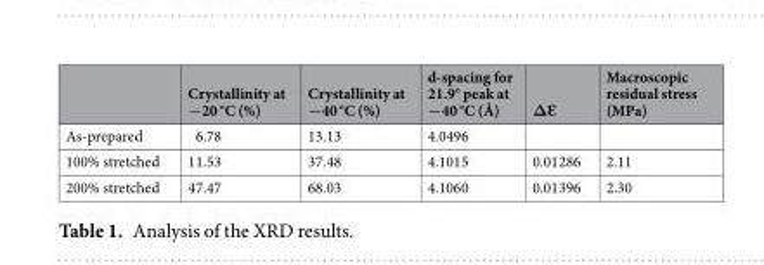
<table><thead><tr><td></td><td>Crystallinity at −20 °C (%)</td><td>Crystallinity at −40 °C (%)</td><td>d-spacing for 21.9° peak at −40 °C (Å)</td><td>ΔƐ</td><td>Macroscopic residual stress (MPa)</td></tr></thead><tbody><tr><td>As-prepared</td><td>6.78</td><td>13.13</td><td>4.0496</td><td></td><td></td></tr><tr><td>100% stretched</td><td>11.53</td><td>37.48</td><td>4.1015</td><td>0.01286</td><td>2.11</td></tr><tr><td>200% stretched</td><td>47.47</td><td>68.03</td><td>4.1060</td><td>0.01396</td><td>2.30</td></tr></tbody></table>